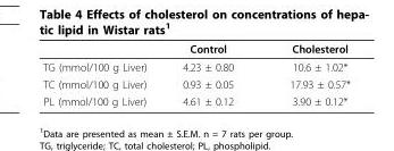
<table><thead><tr><td></td><td>Control</td><td>Cholesterol</td></tr></thead><tbody><tr><td>TG (mmol/100 g Liver)</td><td>4.23 ± 0.80</td><td>10.6 ± 1.02*</td></tr><tr><td>TC (mmol/100 g Liver)</td><td>0.93 ± 0.05</td><td>17.93 ± 0.57*</td></tr><tr><td>PL (mmol/100 g Liver)</td><td>4.61 ± 0.12</td><td>3.90 ± 0.12*</td></tr></tbody></table>